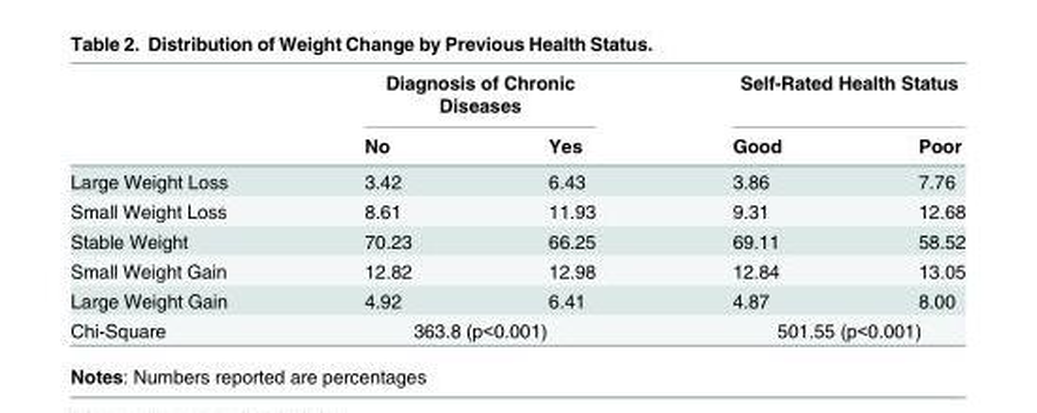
<table><thead><tr><td rowspan="2"></td><td colspan="2">Diagnosis of Chronic Diseases</td><td colspan="2">Self-Rated Health Status</td></tr><tr><td>No</td><td>Yes</td><td>Good</td><td>Poor</td></tr></thead><tbody><tr><td>Large Weight Loss</td><td>3.42</td><td>6.43</td><td>3.86</td><td>7.76</td></tr><tr><td>Small Weight Loss</td><td>8.61</td><td>11.93</td><td>9.31</td><td>12.68</td></tr><tr><td>Stable Weight</td><td>70.23</td><td>66.25</td><td>69.11</td><td>58.52</td></tr><tr><td>Small Weight Gain</td><td>12.82</td><td>12.98</td><td>12.84</td><td>13.05</td></tr><tr><td>Large Weight Gain</td><td>4.92</td><td>6.41</td><td>4.87</td><td>8.00</td></tr><tr><td>Chi-Square</td><td colspan="2">363.8 (p&lt;0.001)</td><td colspan="2">501.55 (p&lt;0.001)</td></tr></tbody></table>